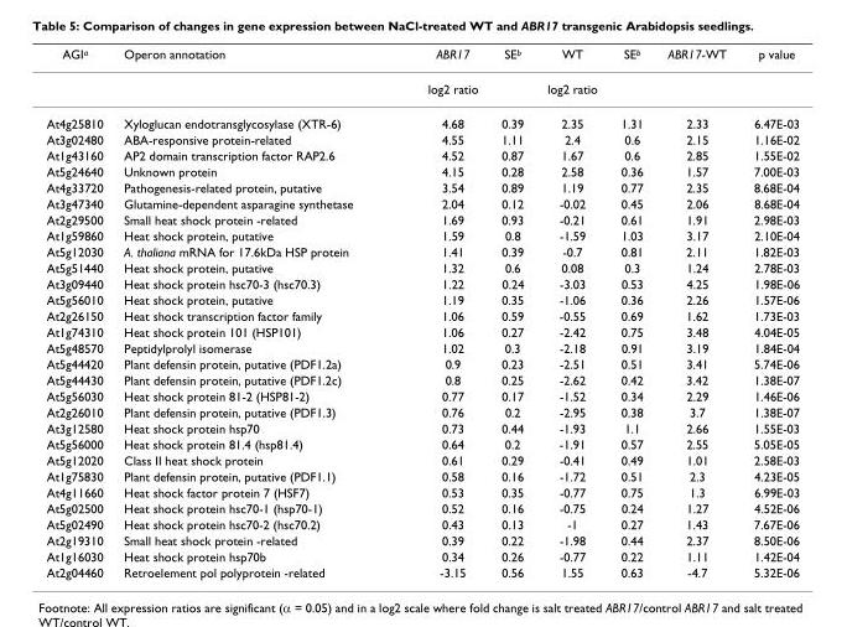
<table><thead><tr><td>AGI<sup>a</sup></td><td>Operon annotation</td><td>ABR17</td><td>SE<sup>b</sup></td><td>WT</td><td>SE<sup>b</sup></td><td>ABR17-WT</td><td>p value</td></tr></thead><tbody><tr><td></td><td></td><td>log2 ratio</td><td></td><td>log2 ratio</td><td></td><td></td><td></td></tr><tr><td>At4g25810</td><td>Xyloglucan endotransglycosylase (XTR-6)</td><td>4.68</td><td>0.39</td><td>2.35</td><td>1.31</td><td>2.33</td><td>6.47E-03</td></tr><tr><td>At3g02480</td><td>ABA-responsive protein-related</td><td>4.55</td><td>1.11</td><td>2.4</td><td>0.6</td><td>2.15</td><td>1.16E-02</td></tr><tr><td>At1g43160</td><td>AP2 domain transcription factor RAP2.6</td><td>4.52</td><td>0.87</td><td>1.67</td><td>0.6</td><td>2.85</td><td>1.55E-02</td></tr><tr><td>At5g24640</td><td>Unknown protein</td><td>4.15</td><td>0.28</td><td>2.58</td><td>0.36</td><td>1.57</td><td>7.00E-03</td></tr><tr><td>At4g33720</td><td>Pathogenesis-related protein, putative</td><td>3.54</td><td>0.89</td><td>1.19</td><td>0.77</td><td>2.35</td><td>8.68E-04</td></tr><tr><td>At3g47340</td><td>Glutamine-dependent asparagine synthetase</td><td>2.04</td><td>0.12</td><td>-0.02</td><td>0.45</td><td>2.06</td><td>8.68E-04</td></tr><tr><td>At2g29500</td><td>Small heat shock protein -related</td><td>1.69</td><td>0.93</td><td>-0.21</td><td>0.61</td><td>1.91</td><td>2.98E-03</td></tr><tr><td>At1g59860</td><td>Heat shock protein, putative</td><td>1.59</td><td>0.8</td><td>-1.59</td><td>1.03</td><td>3.17</td><td>2.10E-04</td></tr><tr><td>At5g12030</td><td>A. thaliana mRNA for 17.6kDa HSP protein</td><td>1.41</td><td>0.39</td><td>-0.7</td><td>0.81</td><td>2.11</td><td>1.82E-03</td></tr><tr><td>At5g51440</td><td>Heat shock protein, putative</td><td>1.32</td><td>0.6</td><td>0.08</td><td>0.3</td><td>1.24</td><td>2.78E-03</td></tr><tr><td>At3g09440</td><td>Heat shock protein hsc70-3 (hsc70.3)</td><td>1.22</td><td>0.24</td><td>-3.03</td><td>0.53</td><td>4.25</td><td>1.98E-06</td></tr><tr><td>At5g56010</td><td>Heat shock protein, putative</td><td>1.19</td><td>0.35</td><td>-1.06</td><td>0.36</td><td>2.26</td><td>1.57E-06</td></tr><tr><td>At2g26150</td><td>Heat shock transcription factor family</td><td>1.06</td><td>0.59</td><td>-0.55</td><td>0.69</td><td>1.62</td><td>1.73E-03</td></tr><tr><td>At1g74310</td><td>Heat shock protein 101 (HSP101)</td><td>1.06</td><td>0.27</td><td>-2.42</td><td>0.75</td><td>3.48</td><td>4.04E-05</td></tr><tr><td>At5g48570</td><td>Peptidylprolyl isomerase</td><td>1.02</td><td>0.3</td><td>-2.18</td><td>0.91</td><td>3.19</td><td>1.84E-04</td></tr><tr><td>At5g44420</td><td>Plant defensin protein, putative (PDF1.2a)</td><td>0.9</td><td>0.23</td><td>-2.51</td><td>0.51</td><td>3.41</td><td>5.74E-06</td></tr><tr><td>At5g44430</td><td>Plant defensin protein, putative (PDF1.2c)</td><td>0.8</td><td>0.25</td><td>-2.62</td><td>0.42</td><td>3.42</td><td>1.38E-07</td></tr><tr><td>At5g56030</td><td>Heat shock protein 81-2 (HSP81-2)</td><td>0.77</td><td>0.17</td><td>-1.52</td><td>0.34</td><td>2.29</td><td>1.46E-06</td></tr><tr><td>At2g26010</td><td>Plant defensin protein, putative (PDF1.3)</td><td>0.76</td><td>0.2</td><td>-2.95</td><td>0.38</td><td>3.7</td><td>1.38E-07</td></tr><tr><td>At3g12580</td><td>Heat shock protein hsp70</td><td>0.73</td><td>0.44</td><td>-1.93</td><td>1.1</td><td>2.66</td><td>1.55E-03</td></tr><tr><td>At5g56000</td><td>Heat shock protein 81.4 (hsp81.4)</td><td>0.64</td><td>0.2</td><td>-1.91</td><td>0.57</td><td>2.55</td><td>5.05E-05</td></tr><tr><td>At5g12020</td><td>Class II heat shock protein</td><td>0.61</td><td>0.29</td><td>-0.41</td><td>0.49</td><td>1.01</td><td>2.58E-03</td></tr><tr><td>At1g75830</td><td>Plant defensin protein, putative (PDF1.1)</td><td>0.58</td><td>0.16</td><td>-1.72</td><td>0.51</td><td>2.3</td><td>4.23E-05</td></tr><tr><td>At4g11660</td><td>Heat shock factor protein 7 (HSF7)</td><td>0.53</td><td>0.35</td><td>-0.77</td><td>0.75</td><td>1.3</td><td>6.99E-03</td></tr><tr><td>At5g02500</td><td>Heat shock protein hsc70-1 (hsp70-1)</td><td>0.52</td><td>0.16</td><td>-0.75</td><td>0.24</td><td>1.27</td><td>4.52E-06</td></tr><tr><td>At5g02490</td><td>Heat shock protein hsc70-2 (hsc70.2)</td><td>0.43</td><td>0.13</td><td>-1</td><td>0.27</td><td>1.43</td><td>7.67E-06</td></tr><tr><td>At2g19310</td><td>Small heat shock protein -related</td><td>0.39</td><td>0.22</td><td>-1.98</td><td>0.44</td><td>2.37</td><td>8.50E-06</td></tr><tr><td>At1g16030</td><td>Heat shock protein hsp70b</td><td>0.34</td><td>0.26</td><td>-0.77</td><td>0.22</td><td>1.11</td><td>1.42E-04</td></tr><tr><td>At2g04460</td><td>Retroelement pol polyprotein -related</td><td>-3.15</td><td>0.56</td><td>1.55</td><td>0.63</td><td>-4.7</td><td>5.32E-06</td></tr></tbody></table>